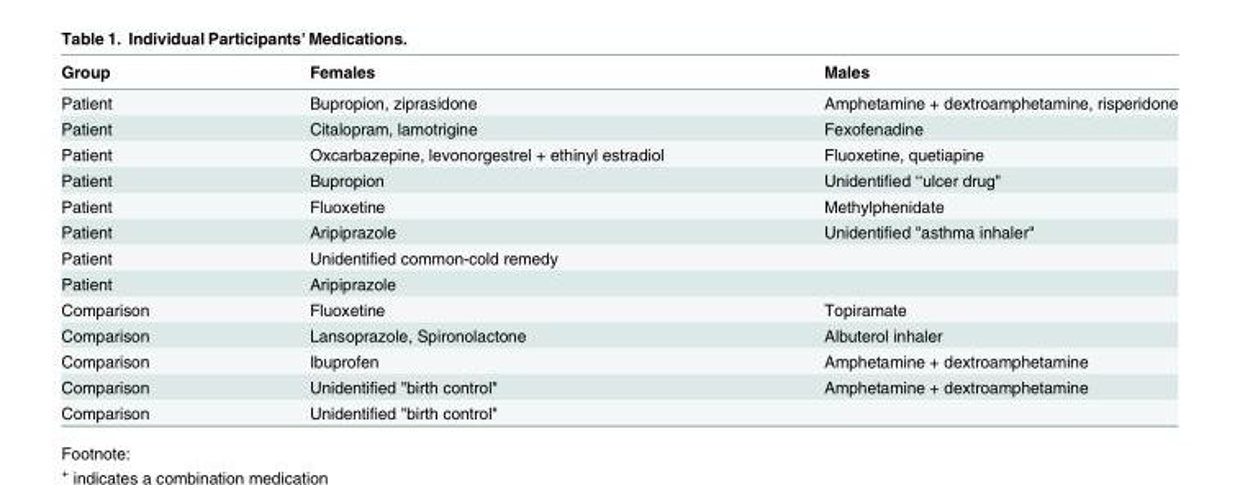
<table><thead><tr><td>Group</td><td>Females</td><td>Males</td></tr></thead><tbody><tr><td>Patient</td><td>Bupropion, ziprasidone</td><td>Amphetamine + dextroamphetamine, risperidone</td></tr><tr><td>Patient</td><td>Citalopram, lamotrigine</td><td>Fexofenadine</td></tr><tr><td>Patient</td><td>Oxcarbazepine, levonorgestrel + ethinyl estradiol</td><td>Fluoxetine, quetiapine</td></tr><tr><td>Patient</td><td>Bupropion</td><td>Unidentified ‘‘ulcer drug&quot;</td></tr><tr><td>Patient</td><td>Fluoxetine</td><td>Methylphenidate</td></tr><tr><td>Patient</td><td>Aripiprazole</td><td>Unidentified &quot;asthma inhaler&quot;</td></tr><tr><td>Patient</td><td>Unidentified common-cold remedy</td><td></td></tr><tr><td>Patient</td><td>Aripiprazole</td><td></td></tr><tr><td>Comparison</td><td>Fluoxetine</td><td>Topiramate</td></tr><tr><td>Comparison</td><td>Lansoprazole, Spironolactone</td><td>Albuterol inhaler</td></tr><tr><td>Comparison</td><td>Ibuprofen</td><td>Amphetamine + dextroamphetamine</td></tr><tr><td>Comparison</td><td>Unidentified &quot;birth control&quot;</td><td>Amphetamine + dextroamphetamine</td></tr><tr><td>Comparison</td><td>Unidentified &quot;birth control&quot;</td><td></td></tr></tbody></table>